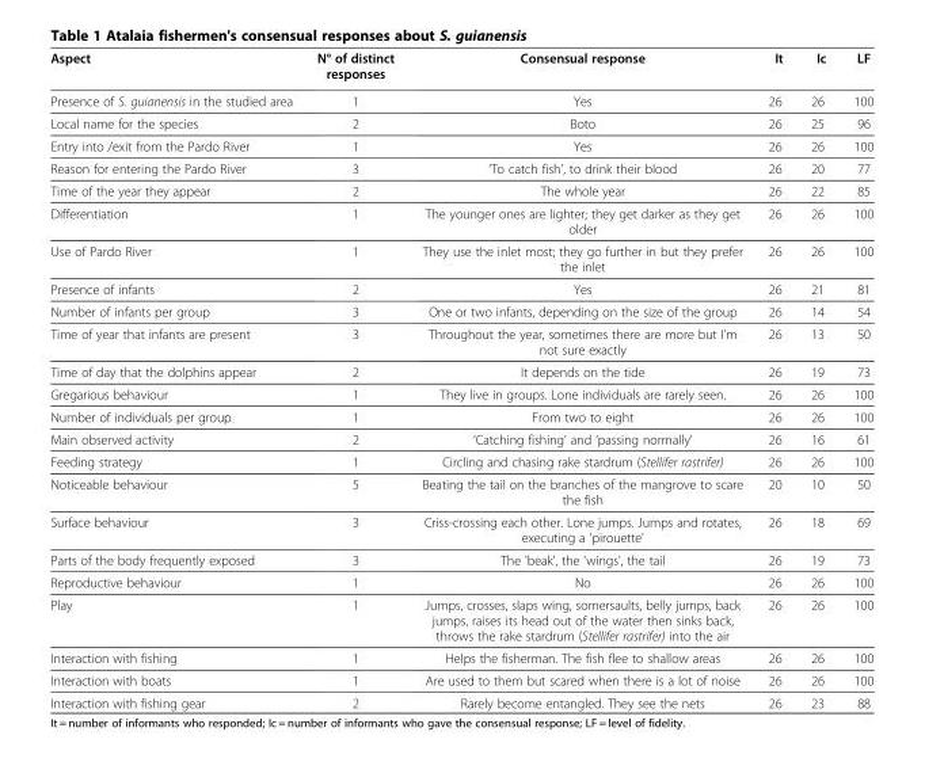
<table><thead><tr><td>Aspect</td><td>N° of distinct responses</td><td>Consensual response</td><td>It</td><td>Ic</td><td>LF</td></tr></thead><tbody><tr><td>Presence of S. guianensis in the studied area</td><td>1</td><td>Yes</td><td>26</td><td>26</td><td>100</td></tr><tr><td>Local name for the species</td><td>2</td><td>Boto</td><td>26</td><td>25</td><td>96</td></tr><tr><td>Entry into /exit from the Pardo River</td><td>1</td><td>Yes</td><td>26</td><td>26</td><td>100</td></tr><tr><td>Reason for entering the Pardo River</td><td>3</td><td>‘To catch fish&#x27;, to drink their blood</td><td>26</td><td>20</td><td>77</td></tr><tr><td>Time of the year they appear</td><td>2</td><td>The whole year</td><td>26</td><td>22</td><td>85</td></tr><tr><td>Differentiation</td><td>1</td><td>The younger ones are lighter; they get darker as they get older</td><td>26</td><td>26</td><td>100</td></tr><tr><td>Use of Pardo River</td><td>1</td><td>They use the inlet most; they go further in but they prefer the inlet</td><td>26</td><td>26</td><td>100</td></tr><tr><td>Presence of infants</td><td>2</td><td>Yes</td><td>26</td><td>21</td><td>81</td></tr><tr><td>Number of infants per group</td><td>3</td><td>One or two infants, depending on the size of the group</td><td>26</td><td>14</td><td>54</td></tr><tr><td>Time of year that infants are present</td><td>3</td><td>Throughout the year, sometimes there are more but I&#x27;m not sure exactly</td><td>26</td><td>13</td><td>50</td></tr><tr><td>Time of day that the dolphins appear</td><td>2</td><td>It depends on the tide</td><td>26</td><td>19</td><td>73</td></tr><tr><td>Gregarious behaviour</td><td>1</td><td>They live in groups. Lone individuals are rarely seen.</td><td>26</td><td>26</td><td>100</td></tr><tr><td>Number of individuals per group</td><td>1</td><td>From two to eight</td><td>26</td><td>26</td><td>100</td></tr><tr><td>Main observed activity</td><td>2</td><td>‘Catching fishing&#x27; and ‘passing normally&#x27;</td><td>26</td><td>16</td><td>61</td></tr><tr><td>Feeding strategy</td><td>1</td><td>Circling and chasing rake stardrum (Stellifer rastrifer)</td><td>26</td><td>26</td><td>100</td></tr><tr><td>Noticeable behaviour</td><td>5</td><td>Beating the tail on the branches of the mangrove to scare the fish</td><td>20</td><td>10</td><td>50</td></tr><tr><td>Surface behaviour</td><td>3</td><td>Criss-crossing each other. Lone jumps. Jumps and rotates, executing a &#x27;pirouette&#x27;</td><td>26</td><td>18</td><td>69</td></tr><tr><td>Parts of the body frequently exposed</td><td>3</td><td>The &#x27;beak&#x27;, the &#x27;wings&#x27;, the tail</td><td>26</td><td>19</td><td>73</td></tr><tr><td>Reproductive behaviour</td><td>1</td><td>No</td><td>26</td><td>26</td><td>100</td></tr><tr><td>Play</td><td>1</td><td>Jumps, crosses, slaps wing, somersaults, belly jumps, back jumps, raises its head out of the water then sinks back, throws the rake stardrum (Stellifer rastrifer) into the air</td><td>26</td><td>26</td><td>100</td></tr><tr><td>Interaction with fishing</td><td>1</td><td>Helps the fisherman. The fish flee to shallow areas</td><td>26</td><td>26</td><td>100</td></tr><tr><td>Interaction with boats</td><td>1</td><td>Are used to them but scared when there is a lot of noise</td><td>26</td><td>26</td><td>100</td></tr><tr><td>Interaction with fishing gear</td><td>2</td><td>Rarely become entangled. They see the nets</td><td>26</td><td>23</td><td>88</td></tr></tbody></table>